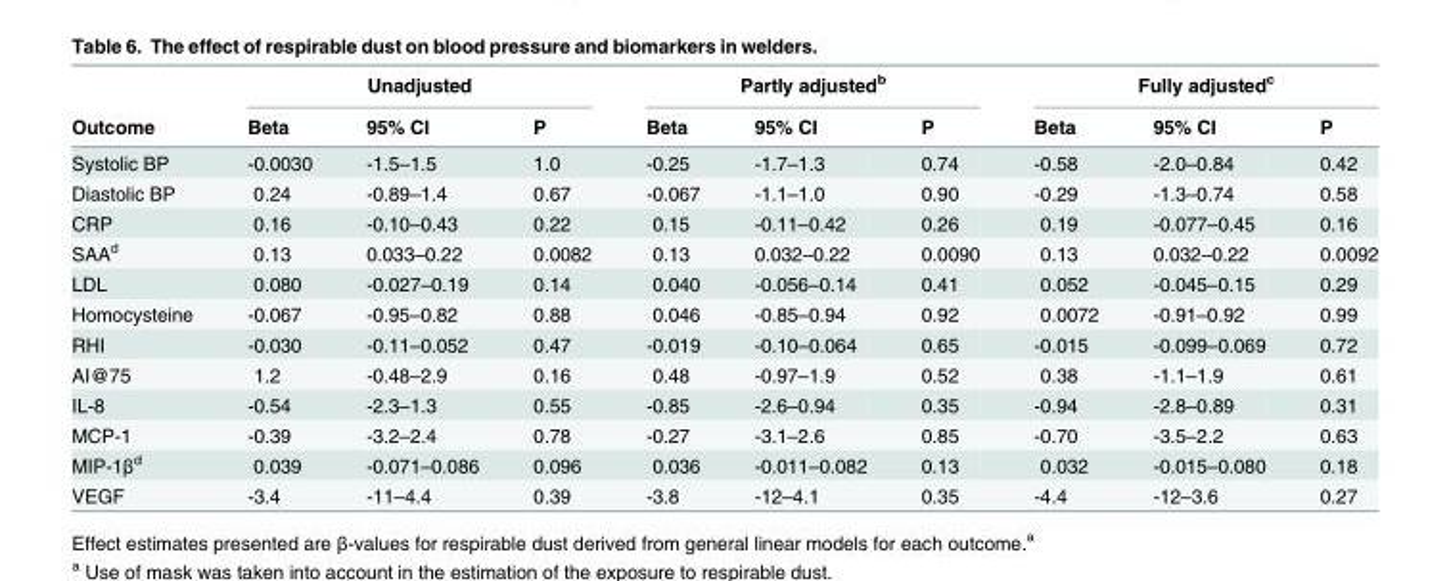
<table><thead><tr><td rowspan="2">Outcome</td><td colspan="3">Unadjusted</td><td colspan="3">Partly adjusted<sup>b</sup></td><td colspan="3">Fully adjusted<sup>c</sup></td></tr><tr><td>Beta</td><td>95% CI</td><td>P</td><td>Beta</td><td>95% CI</td><td>P</td><td>Beta</td><td>95% CI</td><td>P</td></tr></thead><tbody><tr><td>Systolic BP</td><td>-0.0030</td><td>-1.5–1.5</td><td>1.0</td><td>-0.25</td><td>-1.7–1.3</td><td>0.74</td><td>-0.58</td><td>-2.0–0.84</td><td>0.42</td></tr><tr><td>Diastolic BP</td><td>0.24</td><td>-0.89–1.4</td><td>0.67</td><td>-0.067</td><td>-1.1–1.0</td><td>0.90</td><td>-0.29</td><td>-1.3–0.74</td><td>0.58</td></tr><tr><td>CRP</td><td>0.16</td><td>-0.10–0.43</td><td>0.22</td><td>0.15</td><td>-0.11–0.42</td><td>0.26</td><td>0.19</td><td>-0.077–0.45</td><td>0.16</td></tr><tr><td>SAA<sup>d</sup></td><td>0.13</td><td>0.033–0.22</td><td>0.0082</td><td>0.13</td><td>0.032–0.22</td><td>0.0090</td><td>0.13</td><td>0.032–0.22</td><td>0.0092</td></tr><tr><td>LDL</td><td>0.080</td><td>-0.027–0.19</td><td>0.14</td><td>0.040</td><td>-0.056–0.14</td><td>0.41</td><td>0.052</td><td>-0.045–0.15</td><td>0.29</td></tr><tr><td>Homocysteine</td><td>-0.067</td><td>-0.95–0.82</td><td>0.88</td><td>0.046</td><td>-0.85–0.94</td><td>0.92</td><td>0.0072</td><td>-0.91–0.92</td><td>0.99</td></tr><tr><td>RHI</td><td>-0.030</td><td>-0.11–0.052</td><td>0.47</td><td>-0.019</td><td>-0.10–0.064</td><td>0.65</td><td>-0.015</td><td>-0.099–0.069</td><td>0.72</td></tr><tr><td>AI@75</td><td>1.2</td><td>-0.48–2.9</td><td>0.16</td><td>0.48</td><td>-0.97–1.9</td><td>0.52</td><td>0.38</td><td>-1.1–1.9</td><td>0.61</td></tr><tr><td>IL-8</td><td>-0.54</td><td>-2.3–1.3</td><td>0.55</td><td>-0.85</td><td>-2.6–0.94</td><td>0.35</td><td>-0.94</td><td>-2.8–0.89</td><td>0.31</td></tr><tr><td>MCP-1</td><td>-0.39</td><td>-3.2–2.4</td><td>0.78</td><td>-0.27</td><td>-3.1–2.6</td><td>0.85</td><td>-0.70</td><td>-3.5–2.2</td><td>0.63</td></tr><tr><td>MIP-1β<sup>d</sup></td><td>0.039</td><td>-0.071–0.086</td><td>0.096</td><td>0.036</td><td>-0.011–0.082</td><td>0.13</td><td>0.032</td><td>-0.015–0.080</td><td>0.18</td></tr><tr><td>VEGF</td><td>-3.4</td><td>-11–4.4</td><td>0.39</td><td>-3.8</td><td>-12–4.1</td><td>0.35</td><td>-4.4</td><td>-12–3.6</td><td>0.27</td></tr></tbody></table>